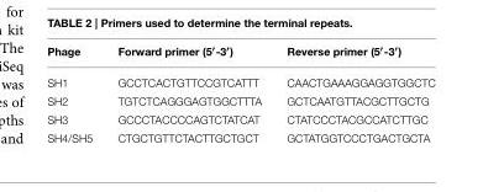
<table><thead><tr><td>Phage</td><td>Forward primer (5′-3′)</td><td>Reverse primer (5′-3′)</td></tr></thead><tbody><tr><td>SH1</td><td>GCCTCACTGTTCCGTCATTT</td><td>CAACTGAAAGGAGGTGGCTC</td></tr><tr><td>SH2</td><td>TGTCTCAGGGAGTGGCTTTA</td><td>GCTCAATGTTACGCTTGCTG</td></tr><tr><td>SH3</td><td>GCCCTACCCCAGTCTATCAT</td><td>CTATCCCTACGCCATCTTGC</td></tr><tr><td>SH4/SH5</td><td>CTGCTGTTCTACTTGCTGCT</td><td>GCTATGGTCCCTGACTGCTA</td></tr></tbody></table>